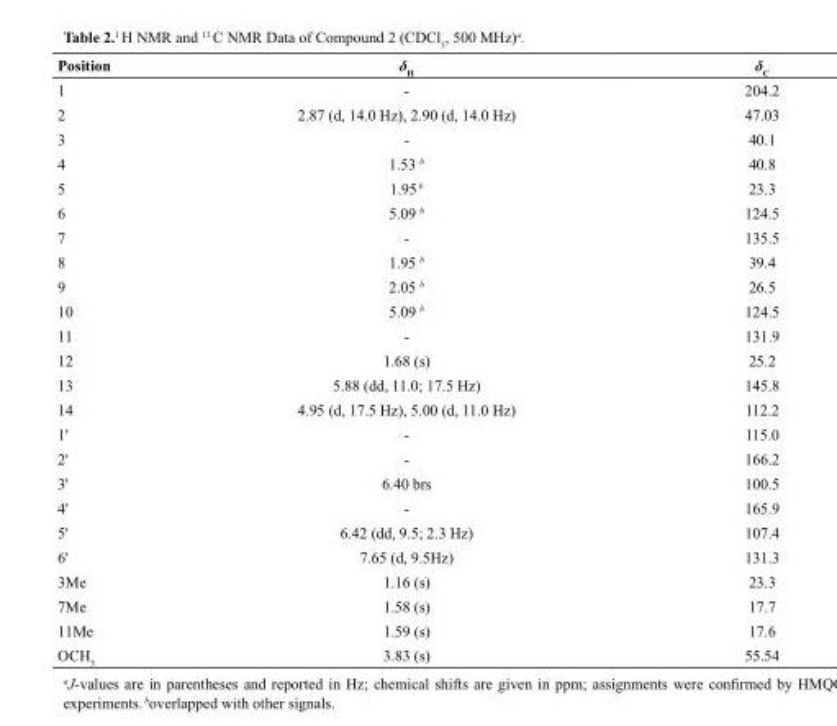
<table><thead><tr><td>Position</td><td>δ<sub>H</sub></td><td>δ<sub>C</sub></td></tr></thead><tbody><tr><td>1</td><td>-</td><td>204.2</td></tr><tr><td>2</td><td>2.87 (d, 14.0 Hz), 2.90 (d, 14.0 Hz)</td><td>47.03</td></tr><tr><td>3</td><td>-</td><td>40.1</td></tr><tr><td>4</td><td>1.53 b</td><td>40.8</td></tr><tr><td>5</td><td>1.95 b</td><td>23.3</td></tr><tr><td>6</td><td>5.09 b</td><td>124.5</td></tr><tr><td>7</td><td>-</td><td>135.5</td></tr><tr><td>8</td><td>1.95 b</td><td>39.4</td></tr><tr><td>9</td><td>2.05 b</td><td>26.5</td></tr><tr><td>10</td><td>5.09 b</td><td>124.5</td></tr><tr><td>11</td><td>-</td><td>131.9</td></tr><tr><td>12</td><td>1.68 (s)</td><td>25.2</td></tr><tr><td>13</td><td>5.88 (dd, 11.0; 17.5 Hz)</td><td>145.8</td></tr><tr><td>14</td><td>4.95 (d, 17.5 Hz), 5.00 (d, 11.0 Hz)</td><td>112.2</td></tr><tr><td>1&#x27;</td><td>-</td><td>115.0</td></tr><tr><td>2&#x27;</td><td>-</td><td>166.2</td></tr><tr><td>3&#x27;</td><td>6.40 brs</td><td>100.5</td></tr><tr><td>4&#x27;</td><td>-</td><td>165.9</td></tr><tr><td>5&#x27;</td><td>6.42 (dd, 9.5; 2.3 Hz)</td><td>107.4</td></tr><tr><td>6&#x27;</td><td>7.65 (d, 9.5Hz)</td><td>131.3</td></tr><tr><td>3Me</td><td>1.16 (s)</td><td>23.3</td></tr><tr><td>7Me</td><td>1.58 (s)</td><td>17.7</td></tr><tr><td>11Me</td><td>1.59 (s)</td><td>17.6</td></tr><tr><td>OCH<sub>3</sub></td><td>3.83 (s)</td><td>55.54</td></tr></tbody></table>